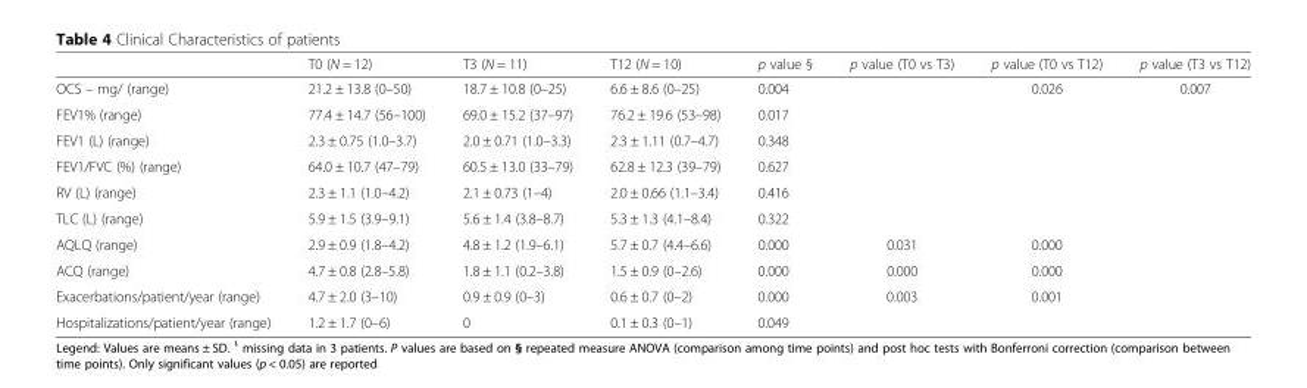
<table><thead><tr><td></td><td>T0 (N = 12)</td><td>T3 (N = 11)</td><td>T12 (N = 10)</td><td>p value §</td><td>p value (T0 vs T3)</td><td>p value (T0 vs T12)</td><td>p value (T3 vs T12)</td></tr></thead><tbody><tr><td>OCS – mg/ (range)</td><td>21.2 ± 13.8 (0–50)</td><td>18.7 ± 10.8 (0–25)</td><td>6.6 ± 8.6 (0–25)</td><td>0.004</td><td></td><td>0.026</td><td>0.007</td></tr><tr><td>FEV1% (range)</td><td>77.4 ± 14.7 (56–100)</td><td>69.0 ± 15.2 (37–97)</td><td>76.2 ± 19.6 (53–98)</td><td>0.017</td><td></td><td></td><td></td></tr><tr><td>FEV1 (L) (range)</td><td>2.3 ± 0.75 (1.0–3.7)</td><td>2.0 ± 0.71 (1.0–3.3)</td><td>2.3 ± 1.11 (0.7–4.7)</td><td>0.348</td><td></td><td></td><td></td></tr><tr><td>FEV1/FVC (%) (range)</td><td>64.0 ± 10.7 (47–79)</td><td>60.5 ± 13.0 (33–79)</td><td>62.8 ± 12.3 (39–79)</td><td>0.627</td><td></td><td></td><td></td></tr><tr><td>RV (L) (range)</td><td>2.3 ± 1.1 (1.0–4.2)</td><td>2.1 ± 0.73 (1–4)</td><td>2.0 ± 0.66 (1.1–3.4)</td><td>0.416</td><td></td><td></td><td></td></tr><tr><td>TLC (L) (range)</td><td>5.9 ± 1.5 (3.9–9.1)</td><td>5.6 ± 1.4 (3.8–8.7)</td><td>5.3 ± 1.3 (4.1–8.4)</td><td>0.322</td><td></td><td></td><td></td></tr><tr><td>AQLQ (range)</td><td>2.9 ± 0.9 (1.8–4.2)</td><td>4.8 ± 1.2 (1.9–6.1)</td><td>5.7 ± 0.7 (4.4–6.6)</td><td>0.000</td><td>0.031</td><td>0.000</td><td></td></tr><tr><td>ACQ (range)</td><td>4.7 ± 0.8 (2.8–5.8)</td><td>1.8 ± 1.1 (0.2–3.8)</td><td>1.5 ± 0.9 (0–2.6)</td><td>0.000</td><td>0.000</td><td>0.000</td><td></td></tr><tr><td>Exacerbations/patient/year (range)</td><td>4.7 ± 2.0 (3–10)</td><td>0.9 ± 0.9 (0–3)</td><td>0.6 ± 0.7 (0–2)</td><td>0.000</td><td>0.003</td><td>0.001</td><td></td></tr><tr><td>Hospitalizations/patient/year (range)</td><td>1.2 ± 1.7 (0–6)</td><td>0</td><td>0.1 ± 0.3 (0–1)</td><td>0.049</td><td></td><td></td><td></td></tr></tbody></table>